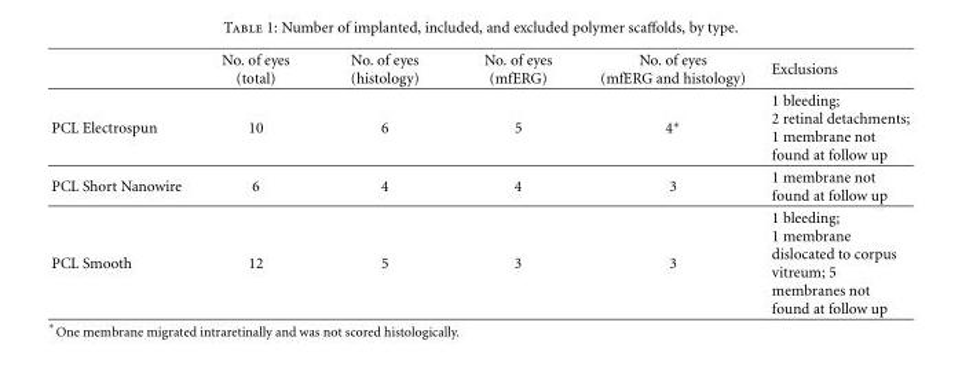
<table><thead><tr><td></td><td>No. of eyes (total)</td><td>No. of eyes (histology)</td><td>No. of eyes (mfERG)</td><td>No. of eyes (mfERG and histology)</td><td>Exclusions</td></tr></thead><tbody><tr><td>PCL Electrospun</td><td>10</td><td>6</td><td>5</td><td>4∗</td><td>1 bleeding; 2 retinal detachments; 1 membrane not found at follow up</td></tr><tr><td>PCL Short Nanowire</td><td>6</td><td>4</td><td>4</td><td>3</td><td>1 membrane not found at follow up</td></tr><tr><td>PCL Smooth</td><td>12</td><td>5</td><td>3</td><td>3</td><td>1 bleeding; 1 membrane dislocated to corpus vitreum; 5 membranes not found at follow up</td></tr></tbody></table>